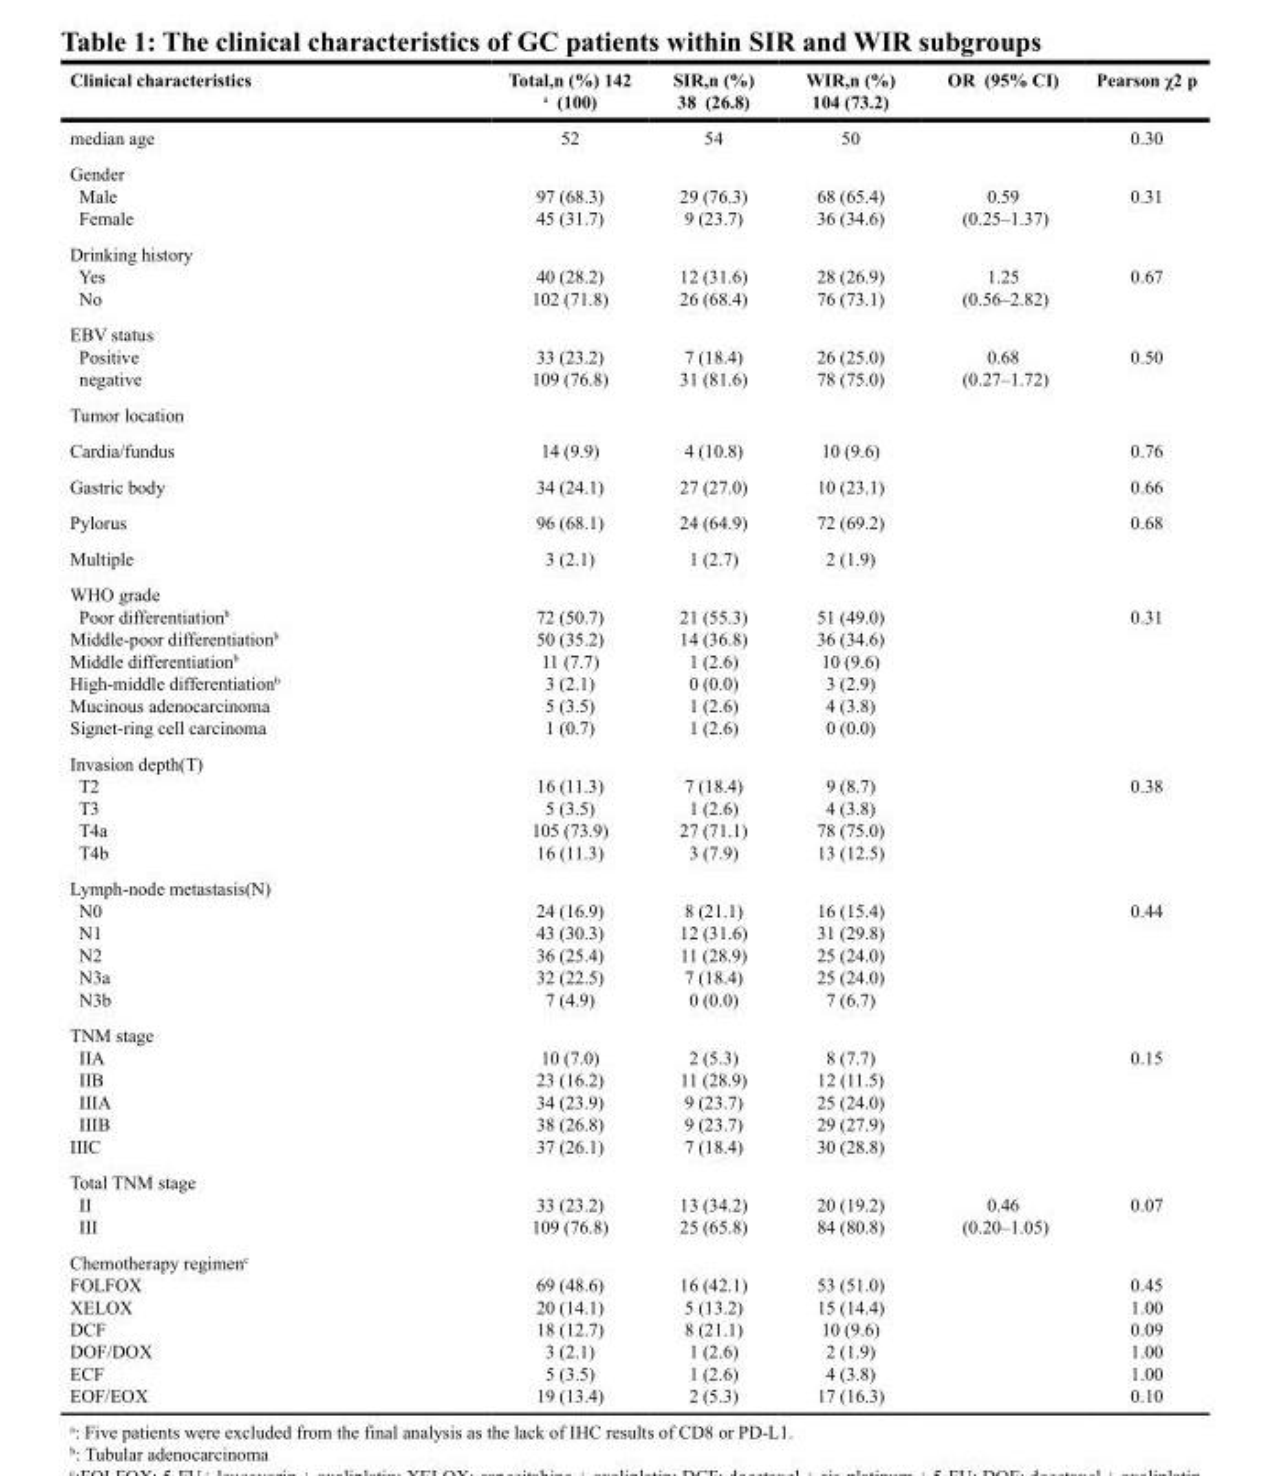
<table><thead><tr><td>Clinical characteristics</td><td>Total,n (%) 142 <sup>a</sup> (100)</td><td>SIR,n (%) 38 (26.8)</td><td>WIR,n (%) 104 (73.2)</td><td>OR (95% CI)</td><td>Pearson χ2 p</td></tr></thead><tbody><tr><td>median age</td><td>52</td><td>54</td><td>50</td><td></td><td>0.30</td></tr><tr><td>Gender Male Female</td><td>97 (68.3) 45 (31.7)</td><td>29 (76.3) 9 (23.7)</td><td>68 (65.4) 36 (34.6)</td><td>0.59 (0.25–1.37)</td><td>0.31</td></tr><tr><td>Drinking history Yes No</td><td>40 (28.2) 102 (71.8)</td><td>12 (31.6) 26 (68.4)</td><td>28 (26.9) 76 (73.1)</td><td>1.25 (0.56–2.82)</td><td>0.67</td></tr><tr><td>EBV status Positive negative</td><td>33 (23.2) 109 (76.8)</td><td>7 (18.4) 31 (81.6)</td><td>26 (25.0) 78 (75.0)</td><td>0.68 (0.27–1.72)</td><td>0.50</td></tr><tr><td colspan="6">Tumor location</td></tr><tr><td>Cardia/fundus</td><td>14 (9.9)</td><td>4 (10.8)</td><td>10 (9.6)</td><td></td><td>0.76</td></tr><tr><td>Gastric body</td><td>34 (24.1)</td><td>27 (27.0)</td><td>10 (23.1)</td><td></td><td>0.66</td></tr><tr><td>Pylorus</td><td>96 (68.1)</td><td>24 (64.9)</td><td>72 (69.2)</td><td></td><td>0.68</td></tr><tr><td>Multiple</td><td>3 (2.1)</td><td>1 (2.7)</td><td>2 (1.9)</td><td></td><td></td></tr><tr><td>WHO grade Poor differentiation<sup>b</sup> Middle-poor differentiation<sup>b</sup> Middle differentiation<sup>b</sup> High-middle differentiation<sup>b</sup> Mucinous adenocarcinoma Signet-ring cell carcinoma</td><td>72 (50.7) 50 (35.2) 11 (7.7) 3 (2.1) 5 (3.5) 1 (0.7)</td><td>21 (55.3) 14 (36.8) 1 (2.6) 0 (0.0) 1 (2.6) 1 (2.6)</td><td>51 (49.0) 36 (34.6) 10 (9.6) 3 (2.9) 4 (3.8) 0 (0.0)</td><td></td><td>0.31</td></tr><tr><td>Invasion depth(T) T2 T3 T4a T4b</td><td>16 (11.3) 5 (3.5) 105 (73.9) 16 (11.3)</td><td>7 (18.4) 1 (2.6) 27 (71.1) 3 (7.9)</td><td>9 (8.7) 4 (3.8) 78 (75.0) 13 (12.5)</td><td></td><td>0.38</td></tr><tr><td>Lymph-node metastasis(N) N0 N1 N2 N3a N3b</td><td>24 (16.9) 43 (30.3) 36 (25.4) 32 (22.5) 7 (4.9)</td><td>8 (21.1) 12 (31.6) 11 (28.9) 7 (18.4) 0 (0.0)</td><td>16 (15.4) 31 (29.8) 25 (24.0) 25 (24.0) 7 (6.7)</td><td></td><td>0.44</td></tr><tr><td>TNM stage IIA IIB IIIA IIIB IIIC</td><td>10 (7.0) 23 (16.2) 34 (23.9) 38 (26.8) 37 (26.1)</td><td>2 (5.3) 11 (28.9) 9 (23.7) 9 (23.7) 7 (18.4)</td><td>8 (7.7) 12 (11.5) 25 (24.0) 29 (27.9) 30 (28.8)</td><td></td><td>0.15</td></tr><tr><td>Total TNM stage II III</td><td>33 (23.2) 109 (76.8)</td><td>13 (34.2) 25 (65.8)</td><td>20 (19.2) 84 (80.8)</td><td>0.46 (0.20–1.05)</td><td>0.07</td></tr><tr><td>Chemotherapy regimen<sup>c</sup> FOLFOX XELOX DCF DOF/DOX ECF EOF/EOX</td><td>69 (48.6) 20 (14.1) 18 (12.7) 3 (2.1) 5 (3.5) 19 (13.4)</td><td>16 (42.1) 5 (13.2) 8 (21.1) 1 (2.6) 1 (2.6) 2 (5.3)</td><td>53 (51.0) 15 (14.4) 10 (9.6) 2 (1.9) 4 (3.8) 17 (16.3)</td><td></td><td>0.45 1.00 0.09 1.00 1.00 0.10</td></tr></tbody></table>